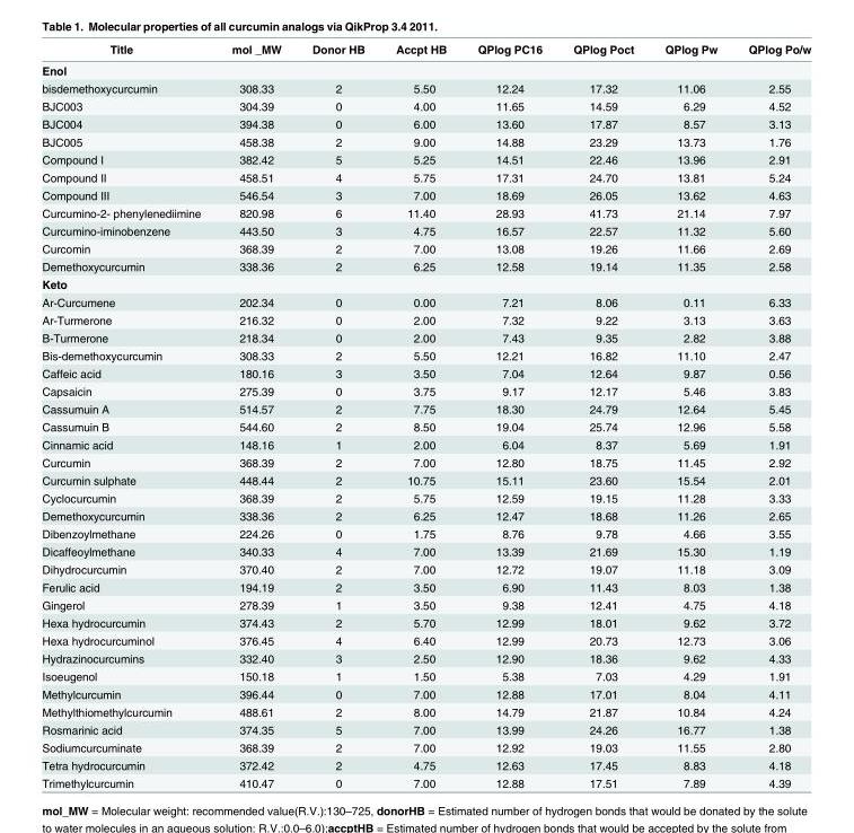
<table><thead><tr><td>Title</td><td>mol _MW</td><td>Donor HB</td><td>Accpt HB</td><td>QPlog PC16</td><td>QPlog Poct</td><td>QPlog Pw</td><td>QPlog Po/w</td></tr></thead><tbody><tr><td colspan="8">Enol</td></tr><tr><td>bisdemethoxycurcumin</td><td>308.33</td><td>2</td><td>5.50</td><td>12.24</td><td>17.32</td><td>11.06</td><td>2.55</td></tr><tr><td>BJC003</td><td>304.39</td><td>0</td><td>4.00</td><td>11.65</td><td>14.59</td><td>6.29</td><td>4.52</td></tr><tr><td>BJC004</td><td>394.38</td><td>0</td><td>6.00</td><td>13.60</td><td>17.87</td><td>8.57</td><td>3.13</td></tr><tr><td>BJC005</td><td>458.38</td><td>2</td><td>9.00</td><td>14.88</td><td>23.29</td><td>13.73</td><td>1.76</td></tr><tr><td>Compound I</td><td>382.42</td><td>5</td><td>5.25</td><td>14.51</td><td>22.46</td><td>13.96</td><td>2.91</td></tr><tr><td>Compound II</td><td>458.51</td><td>4</td><td>5.75</td><td>17.31</td><td>24.70</td><td>13.81</td><td>5.24</td></tr><tr><td>Compound III</td><td>546.54</td><td>3</td><td>7.00</td><td>18.69</td><td>26.05</td><td>13.62</td><td>4.63</td></tr><tr><td>Curcumino-2- phenylenediimine</td><td>820.98</td><td>6</td><td>11.40</td><td>28.93</td><td>41.73</td><td>21.14</td><td>7.97</td></tr><tr><td>Curcumino-iminobenzene</td><td>443.50</td><td>3</td><td>4.75</td><td>16.57</td><td>22.57</td><td>11.32</td><td>5.60</td></tr><tr><td>Curcomin</td><td>368.39</td><td>2</td><td>7.00</td><td>13.08</td><td>19.26</td><td>11.66</td><td>2.69</td></tr><tr><td>Demethoxycurcumin</td><td>338.36</td><td>2</td><td>6.25</td><td>12.58</td><td>19.14</td><td>11.35</td><td>2.58</td></tr><tr><td colspan="8">Keto</td></tr><tr><td>Ar-Curcumene</td><td>202.34</td><td>0</td><td>0.00</td><td>7.21</td><td>8.06</td><td>0.11</td><td>6.33</td></tr><tr><td>Ar-Turmerone</td><td>216.32</td><td>0</td><td>2.00</td><td>7.32</td><td>9.22</td><td>3.13</td><td>3.63</td></tr><tr><td>B-Turmerone</td><td>218.34</td><td>0</td><td>2.00</td><td>7.43</td><td>9.35</td><td>2.82</td><td>3.88</td></tr><tr><td>Bis-demethoxycurcumin</td><td>308.33</td><td>2</td><td>5.50</td><td>12.21</td><td>16.82</td><td>11.10</td><td>2.47</td></tr><tr><td>Caffeic acid</td><td>180.16</td><td>3</td><td>3.50</td><td>7.04</td><td>12.64</td><td>9.87</td><td>0.56</td></tr><tr><td>Capsaicin</td><td>275.39</td><td>0</td><td>3.75</td><td>9.17</td><td>12.17</td><td>5.46</td><td>3.83</td></tr><tr><td>Cassumuin A</td><td>514.57</td><td>2</td><td>7.75</td><td>18.30</td><td>24.79</td><td>12.64</td><td>5.45</td></tr><tr><td>Cassumuin B</td><td>544.60</td><td>2</td><td>8.50</td><td>19.04</td><td>25.74</td><td>12.96</td><td>5.58</td></tr><tr><td>Cinnamic acid</td><td>148.16</td><td>1</td><td>2.00</td><td>6.04</td><td>8.37</td><td>5.69</td><td>1.91</td></tr><tr><td>Curcumin</td><td>368.39</td><td>2</td><td>7.00</td><td>12.80</td><td>18.75</td><td>11.45</td><td>2.92</td></tr><tr><td>Curcumin sulphate</td><td>448.44</td><td>2</td><td>10.75</td><td>15.11</td><td>23.60</td><td>15.54</td><td>2.01</td></tr><tr><td>Cyclocurcumin</td><td>368.39</td><td>2</td><td>5.75</td><td>12.59</td><td>19.15</td><td>11.28</td><td>3.33</td></tr><tr><td>Demethoxycurcumin</td><td>338.36</td><td>2</td><td>6.25</td><td>12.47</td><td>18.68</td><td>11.26</td><td>2.65</td></tr><tr><td>Dibenzoylmethane</td><td>224.26</td><td>0</td><td>1.75</td><td>8.76</td><td>9.78</td><td>4.66</td><td>3.55</td></tr><tr><td>Dicaffeoylmethane</td><td>340.33</td><td>4</td><td>7.00</td><td>13.39</td><td>21.69</td><td>15.30</td><td>1.19</td></tr><tr><td>Dihydrocurcumin</td><td>370.40</td><td>2</td><td>7.00</td><td>12.72</td><td>19.07</td><td>11.18</td><td>3.09</td></tr><tr><td>Ferulic acid</td><td>194.19</td><td>2</td><td>3.50</td><td>6.90</td><td>11.43</td><td>8.03</td><td>1.38</td></tr><tr><td>Gingerol</td><td>278.39</td><td>1</td><td>3.50</td><td>9.38</td><td>12.41</td><td>4.75</td><td>4.18</td></tr><tr><td>Hexa hydrocurcumin</td><td>374.43</td><td>2</td><td>5.70</td><td>12.99</td><td>18.01</td><td>9.62</td><td>3.72</td></tr><tr><td>Hexa hydrocurcuminol</td><td>376.45</td><td>4</td><td>6.40</td><td>12.99</td><td>20.73</td><td>12.73</td><td>3.06</td></tr><tr><td>Hydrazinocurcumins</td><td>332.40</td><td>3</td><td>2.50</td><td>12.90</td><td>18.36</td><td>9.62</td><td>4.33</td></tr><tr><td>Isoeugenol</td><td>150.18</td><td>1</td><td>1.50</td><td>5.38</td><td>7.03</td><td>4.29</td><td>1.91</td></tr><tr><td>Methylcurcumin</td><td>396.44</td><td>0</td><td>7.00</td><td>12.88</td><td>17.01</td><td>8.04</td><td>4.11</td></tr><tr><td>Methylthiomethylcurcumin</td><td>488.61</td><td>2</td><td>8.00</td><td>14.79</td><td>21.87</td><td>10.84</td><td>4.24</td></tr><tr><td>Rosmarinic acid</td><td>374.35</td><td>5</td><td>7.00</td><td>13.99</td><td>24.26</td><td>16.77</td><td>1.38</td></tr><tr><td>Sodiumcurcuminate</td><td>368.39</td><td>2</td><td>7.00</td><td>12.92</td><td>19.03</td><td>11.55</td><td>2.80</td></tr><tr><td>Tetra hydrocurcumin</td><td>372.42</td><td>2</td><td>4.75</td><td>12.63</td><td>17.45</td><td>8.83</td><td>4.18</td></tr><tr><td>Trimethylcurcumin</td><td>410.47</td><td>0</td><td>7.00</td><td>12.88</td><td>17.51</td><td>7.89</td><td>4.39</td></tr></tbody></table>